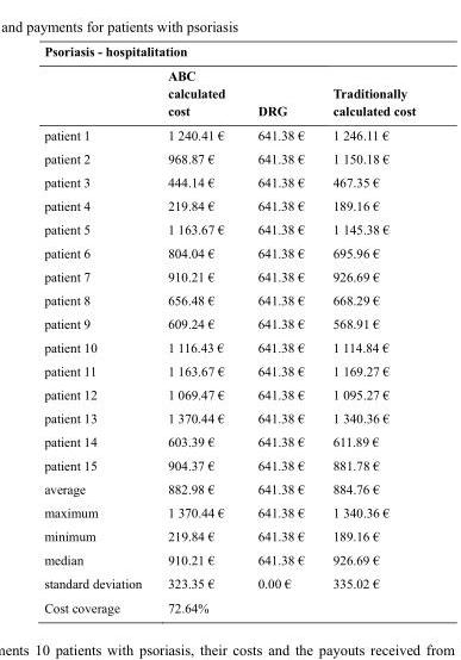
<table><thead><tr><td colspan="4">Psoriasis - hospitalitation</td></tr><tr><td></td><td>ABC calculated cost</td><td>DRG</td><td>Traditionally calculated cost</td></tr></thead><tbody><tr><td>patient 1</td><td>1 240.41 €</td><td>641.38 €</td><td>1 246.11 €</td></tr><tr><td>patient 2</td><td>968.87 €</td><td>641.38 €</td><td>1 150.18 €</td></tr><tr><td>patient 3</td><td>444.14 €</td><td>641.38 €</td><td>467.35 €</td></tr><tr><td>patient 4</td><td>219.84 €</td><td>641.38 €</td><td>189.16 €</td></tr><tr><td>patient 5</td><td>1 163.67 €</td><td>641.38 €</td><td>1 145.38 €</td></tr><tr><td>patient 6</td><td>804.04 €</td><td>641.38 €</td><td>695.96 €</td></tr><tr><td>patient 7</td><td>910.21 €</td><td>641.38 €</td><td>926.69 €</td></tr><tr><td>patient 8</td><td>656.48 €</td><td>641.38 €</td><td>668.29 €</td></tr><tr><td>patient 9</td><td>609.24 €</td><td>641.38 €</td><td>568.91 €</td></tr><tr><td>patient 10</td><td>1 116.43 €</td><td>641.38 €</td><td>1 114.84 €</td></tr><tr><td>patient 11</td><td>1 163.67 €</td><td>641.38 €</td><td>1 169.27 €</td></tr><tr><td>patient 12</td><td>1 069.47 €</td><td>641.38 €</td><td>1 095.27 €</td></tr><tr><td>patient 13</td><td>1 370.44 €</td><td>641.38 €</td><td>1 340.36 €</td></tr><tr><td>patient 14</td><td>603.39 €</td><td>641.38 €</td><td>611.89 €</td></tr><tr><td>patient 15</td><td>904.37 €</td><td>641.38 €</td><td>881.78 €</td></tr><tr><td>average</td><td>882.98 €</td><td>641.38 €</td><td>884.76 €</td></tr><tr><td>maximum</td><td>1 370.44 €</td><td>641.38 €</td><td>1 340.36 €</td></tr><tr><td>minimum</td><td>219.84 €</td><td>641.38 €</td><td>189.16 €</td></tr><tr><td>median</td><td>910.21 €</td><td>641.38 €</td><td>926.69 €</td></tr><tr><td>standard deviation</td><td>323.35 €</td><td>0.00 €</td><td>335.02 €</td></tr><tr><td>Cost coverage</td><td colspan="3">72.64%</td></tr></tbody></table>